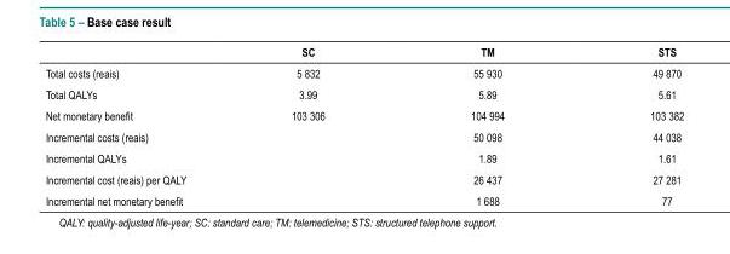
<table><thead><tr><td></td><td>SC</td><td>TM</td><td>STS</td></tr></thead><tbody><tr><td>Total costs (reais)</td><td>5 832</td><td>55 930</td><td>49 870</td></tr><tr><td>Total QALYs</td><td>3.99</td><td>5.89</td><td>5.61</td></tr><tr><td>Net monetary benefit</td><td>103 306</td><td>104 994</td><td>103 382</td></tr><tr><td>Incremental costs (reais)</td><td></td><td>50 098</td><td>44 038</td></tr><tr><td>Incremental QALYs</td><td></td><td>1.89</td><td>1.61</td></tr><tr><td>Incremental cost (reais) per QALY</td><td></td><td>26 437</td><td>27 281</td></tr><tr><td>Incremental net monetary benefit</td><td></td><td>1 688</td><td>77</td></tr></tbody></table>